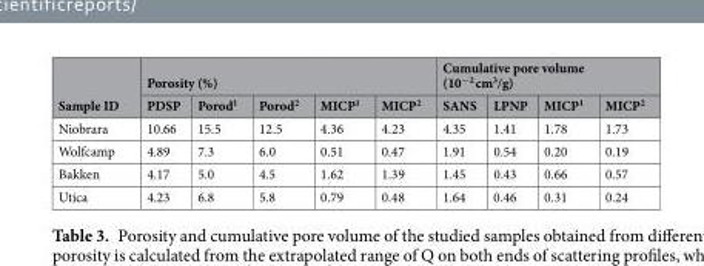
<table><thead><tr><td rowspan="2">Sample ID</td><td colspan="5">Porosity (%)</td><td colspan="4">Cumulative pore volume (10<sup>−2</sup> cm<sup>3</sup>/g)</td></tr><tr><td>PDSP</td><td>Porod<sup>1</sup></td><td>Porod<sup>2</sup></td><td>MICP<sup>1</sup></td><td>MICP<sup>2</sup></td><td>SANS</td><td>LPNP</td><td>MICP<sup>1</sup></td><td>MICP<sup>2</sup></td></tr></thead><tbody><tr><td>Niobrara</td><td>10.66</td><td>15.5</td><td>12.5</td><td>4.36</td><td>4.23</td><td>4.35</td><td>1.41</td><td>1.78</td><td>1.73</td></tr><tr><td>Wolfcamp</td><td>4.89</td><td>7.3</td><td>6.0</td><td>0.51</td><td>0.47</td><td>1.91</td><td>0.54</td><td>0.20</td><td>0.19</td></tr><tr><td>Bakken</td><td>4.17</td><td>5.0</td><td>4.5</td><td>1.62</td><td>1.39</td><td>1.45</td><td>0.43</td><td>0.66</td><td>0.57</td></tr><tr><td>Utica</td><td>4.23</td><td>6.8</td><td>5.8</td><td>0.79</td><td>0.48</td><td>1.64</td><td>0.46</td><td>0.31</td><td>0.24</td></tr></tbody></table>